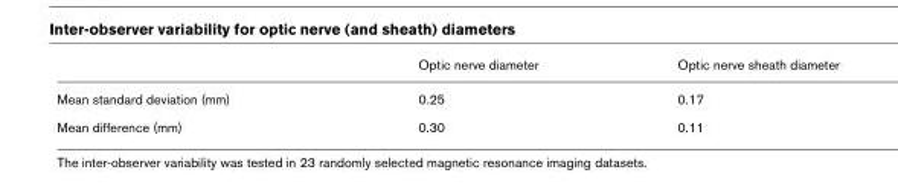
<table><thead><tr><td></td><td>Optic nerve diameter</td><td>Optic nerve sheath diameter</td></tr></thead><tbody><tr><td>Mean standard deviation (mm)</td><td>0.25</td><td>0.17</td></tr><tr><td>Mean difference (mm)</td><td>0.30</td><td>0.11</td></tr></tbody></table>